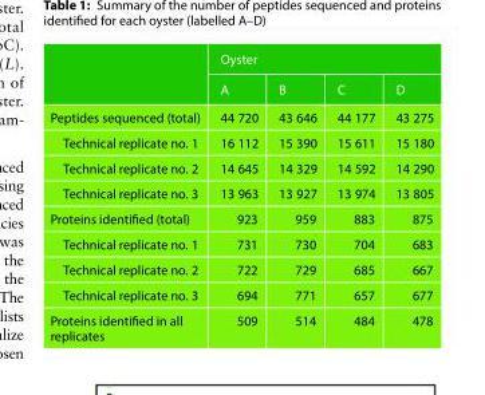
<table><thead><tr><td rowspan="2"></td><td colspan="4">Oyster</td></tr><tr><td>A</td><td>B</td><td>C</td><td>D</td></tr></thead><tbody><tr><td>Peptides sequenced (total)</td><td>44 720</td><td>43 646</td><td>44 177</td><td>43 275</td></tr><tr><td>Technical replicate no. 1</td><td>16 112</td><td>15 390</td><td>15 611</td><td>15 180</td></tr><tr><td>Technical replicate no. 2</td><td>14 645</td><td>14 329</td><td>14 592</td><td>14 290</td></tr><tr><td>Technical replicate no. 3</td><td>13 963</td><td>13 927</td><td>13 974</td><td>13 805</td></tr><tr><td>Proteins identified (total)</td><td>923</td><td>959</td><td>883</td><td>875</td></tr><tr><td>Technical replicate no. 1</td><td>731</td><td>730</td><td>704</td><td>683</td></tr><tr><td>Technical replicate no. 2</td><td>722</td><td>729</td><td>685</td><td>667</td></tr><tr><td>Technical replicate no. 3</td><td>694</td><td>771</td><td>657</td><td>677</td></tr><tr><td>Proteins identified in all replicates</td><td>509</td><td>514</td><td>484</td><td>478</td></tr></tbody></table>